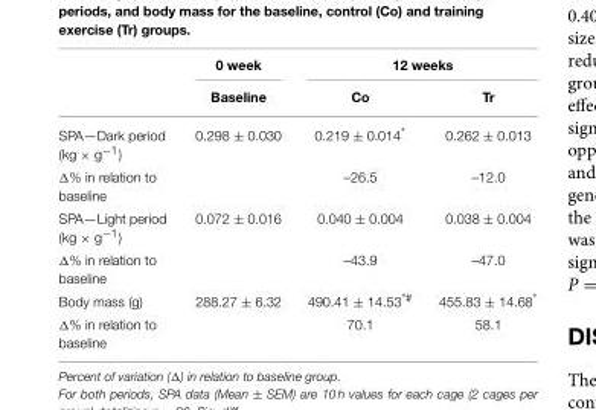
<table><thead><tr><td rowspan="2"></td><td rowspan="2">0 week Baseline</td><td colspan="2">12 weeks</td></tr><tr><td>Co</td><td>Tr</td></tr></thead><tbody><tr><td>SPA—Dark period (kg × g<sup>−1</sup>)</td><td>0.298 ± 0.030</td><td>0.219 ± 0.014*</td><td>0.262 ± 0.013</td></tr><tr><td>Δ% in relation to baseline</td><td></td><td>–26.5</td><td>–12.0</td></tr><tr><td>SPA—Light period (kg × g<sup>−1</sup>)</td><td>0.072 ± 0.016</td><td>0.040 ± 0.004</td><td>0.038 ± 0.004</td></tr><tr><td>Δ% in relation to baseline</td><td></td><td>–43.9</td><td>–47.0</td></tr><tr><td>Body mass (g)</td><td>288.27 ± 6.32</td><td>490.41 ± 14.53<sup>*#</sup></td><td>455.83 ± 14.68*</td></tr><tr><td>Δ% in relation to baseline</td><td></td><td>70.1</td><td>58.1</td></tr></tbody></table>